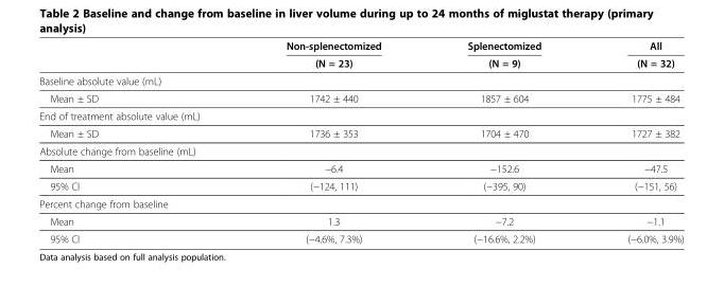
<table><thead><tr><td rowspan="2"></td><td rowspan="2">Non-splenectomized (N = 23)</td><td rowspan="2">Splenectomized (N = 9)</td><td rowspan="2">All (N = 32)</td></tr><tr></tr></thead><tbody><tr><td colspan="4">Baseline absolute value (mL)</td></tr><tr><td>Mean ± SD</td><td>1742 ± 440</td><td>1857 ± 604</td><td>1775 ± 484</td></tr><tr><td colspan="4">End of treatment absolute value (mL)</td></tr><tr><td>Mean ± SD</td><td>1736 ± 353</td><td>1704 ± 470</td><td>1727 ± 382</td></tr><tr><td colspan="4">Absolute change from baseline (mL)</td></tr><tr><td>Mean</td><td>−6.4</td><td>−152.6</td><td>−47.5</td></tr><tr><td>95% CI</td><td>(−124, 111)</td><td>(−395, 90)</td><td>(−151, 56)</td></tr><tr><td colspan="4">Percent change from baseline</td></tr><tr><td>Mean</td><td>1.3</td><td>−7.2</td><td>−1.1</td></tr><tr><td>95% CI</td><td>(−4.6%, 7.3%)</td><td>(−16.6%, 2.2%)</td><td>(−6.0%, 3.9%)</td></tr></tbody></table>